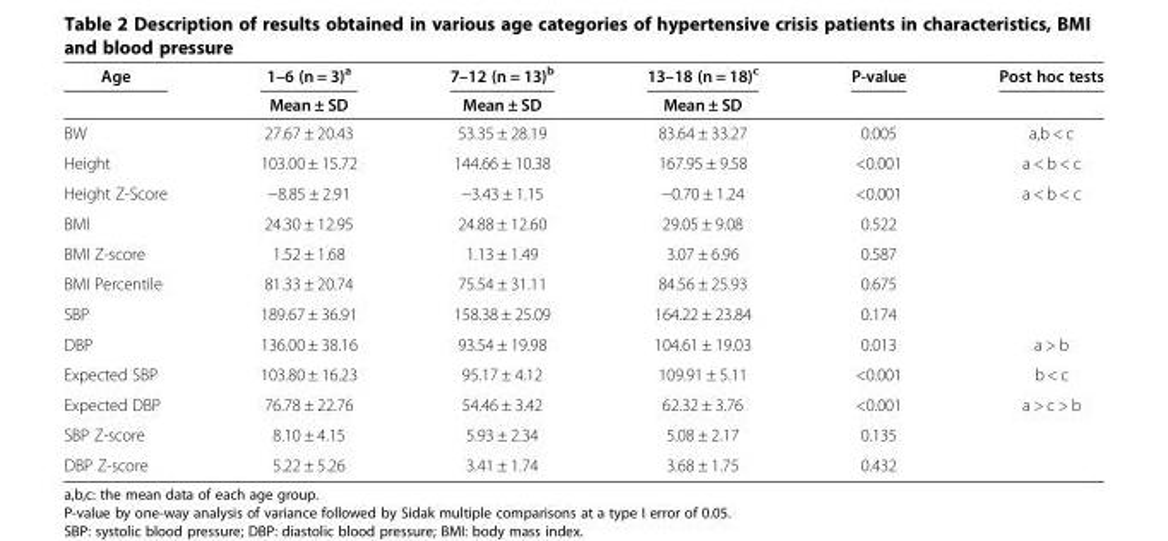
<table><thead><tr><td rowspan="2">Age</td><td rowspan="2">1–6 (n = 3)<sup>a</sup> Mean ± SD</td><td rowspan="2">7–12 (n = 13)<sup>b</sup> Mean ± SD</td><td rowspan="2">13–18 (n = 18)<sup>c</sup> Mean ± SD</td><td rowspan="2">P-value</td><td rowspan="2">Post hoc tests</td></tr><tr></tr></thead><tbody><tr><td>BW</td><td>27.67 ± 20.43</td><td>53.35 ± 28.19</td><td>83.64 ± 33.27</td><td>0.005</td><td>a,b &lt; c</td></tr><tr><td>Height</td><td>103.00 ± 15.72</td><td>144.66 ± 10.38</td><td>167.95 ± 9.58</td><td>&lt;0.001</td><td>a &lt; b &lt; c</td></tr><tr><td>Height Z-Score</td><td>−8.85 ± 2.91</td><td>−3.43 ± 1.15</td><td>−0.70 ± 1.24</td><td>&lt;0.001</td><td>a &lt; b &lt; c</td></tr><tr><td>BMI</td><td>24.30 ± 12.95</td><td>24.88 ± 12.60</td><td>29.05 ± 9.08</td><td>0.522</td><td></td></tr><tr><td>BMI Z-score</td><td>1.52 ± 1.68</td><td>1.13 ± 1.49</td><td>3.07 ± 6.96</td><td>0.587</td><td></td></tr><tr><td>BMI Percentile</td><td>81.33 ± 20.74</td><td>75.54 ± 31.11</td><td>84.56 ± 25.93</td><td>0.675</td><td></td></tr><tr><td>SBP</td><td>189.67 ± 36.91</td><td>158.38 ± 25.09</td><td>164.22 ± 23.84</td><td>0.174</td><td></td></tr><tr><td>DBP</td><td>136.00 ± 38.16</td><td>93.54 ± 19.98</td><td>104.61 ± 19.03</td><td>0.013</td><td>a &gt; b</td></tr><tr><td>Expected SBP</td><td>103.80 ± 16.23</td><td>95.17 ± 4.12</td><td>109.91 ± 5.11</td><td>&lt;0.001</td><td>b &lt; c</td></tr><tr><td>Expected DBP</td><td>76.78 ± 22.76</td><td>54.46 ± 3.42</td><td>62.32 ± 3.76</td><td>&lt;0.001</td><td>a &gt; c &gt; b</td></tr><tr><td>SBP Z-score</td><td>8.10 ± 4.15</td><td>5.93 ± 2.34</td><td>5.08 ± 2.17</td><td>0.135</td><td></td></tr><tr><td>DBP Z-score</td><td>5.22 ± 5.26</td><td>3.41 ± 1.74</td><td>3.68 ± 1.75</td><td>0.432</td><td></td></tr></tbody></table>